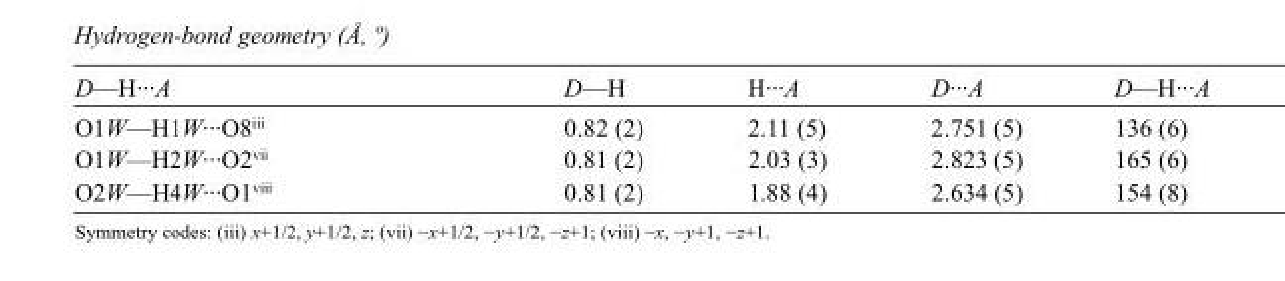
<table><tbody><tr><td>D—H···A</td><td>D—H</td><td>H···A</td><td>D···A</td><td>D—H···A</td></tr><tr><td>O1W—H1W···O8<sup>iii</sup></td><td>0.82 (2)</td><td>2.11 (5)</td><td>2.751 (5)</td><td>136 (6)</td></tr><tr><td>O1W—H2W···O2<sup>vii</sup></td><td>0.81 (2)</td><td>2.03 (3)</td><td>2.823 (5)</td><td>165 (6)</td></tr><tr><td>O2W—H4W···O1<sup>viii</sup></td><td>0.81 (2)</td><td>1.88 (4)</td><td>2.634 (5)</td><td>154 (8)</td></tr></tbody></table>